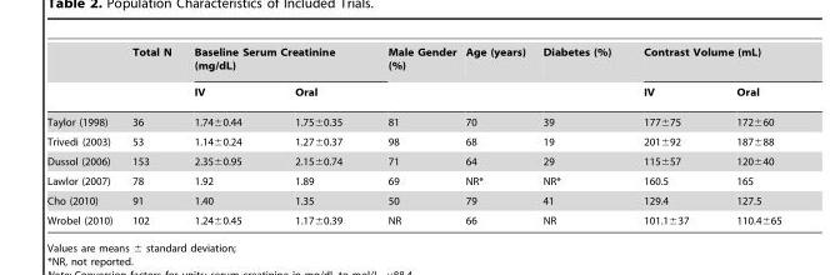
<table><thead><tr><td rowspan="2"></td><td rowspan="2">Total N</td><td colspan="2">Baseline Serum Creatinine (mg/dL)</td><td rowspan="2">Male Gender (%)</td><td rowspan="2">Age (years)</td><td rowspan="2">Diabetes (%)</td><td colspan="2">Contrast Volume (mL)</td></tr><tr><td>IV</td><td>Oral</td><td>IV</td><td>Oral</td></tr></thead><tbody><tr><td>Taylor (1998)</td><td>36</td><td>1.74±0.44</td><td>1.75±0.35</td><td>81</td><td>70</td><td>39</td><td>177±75</td><td>172±60</td></tr><tr><td>Trivedi (2003)</td><td>53</td><td>1.14±0.24</td><td>1.27±0.37</td><td>98</td><td>68</td><td>19</td><td>201±92</td><td>187±88</td></tr><tr><td>Dussol (2006)</td><td>153</td><td>2.35±0.95</td><td>2.15±0.74</td><td>71</td><td>64</td><td>29</td><td>115±57</td><td>120±40</td></tr><tr><td>Lawlor (2007)</td><td>78</td><td>1.92</td><td>1.89</td><td>69</td><td>NR*</td><td>NR*</td><td>160.5</td><td>165</td></tr><tr><td>Cho (2010)</td><td>91</td><td>1.40</td><td>1.35</td><td>50</td><td>79</td><td>41</td><td>129.4</td><td>127.5</td></tr><tr><td>Wrobel (2010)</td><td>102</td><td>1.24±0.45</td><td>1.17±0.39</td><td>NR</td><td>66</td><td>NR</td><td>101.1±37</td><td>110.4±65</td></tr></tbody></table>